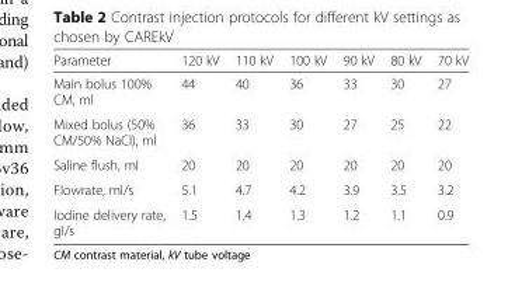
<table><thead><tr><td>Parameter</td><td>120 kV</td><td>110 kV</td><td>100 kV</td><td>90 kV</td><td>80 kV</td><td>70 kV</td></tr></thead><tbody><tr><td>Main bolus 100% CM, ml</td><td>44</td><td>40</td><td>36</td><td>33</td><td>30</td><td>27</td></tr><tr><td>Mixed bolus (50% CM/50% NaCl), ml</td><td>36</td><td>33</td><td>30</td><td>27</td><td>25</td><td>22</td></tr><tr><td>Saline flush, ml</td><td>20</td><td>20</td><td>20</td><td>20</td><td>20</td><td>20</td></tr><tr><td>Flowrate, ml/s</td><td>5.1</td><td>4.7</td><td>4.2</td><td>3.9</td><td>3.5</td><td>3.2</td></tr><tr><td>Iodine delivery rate, gI/s</td><td>1.5</td><td>1.4</td><td>1.3</td><td>1.2</td><td>1.1</td><td>0.9</td></tr></tbody></table>